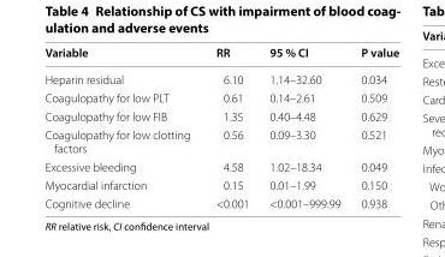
<table><thead><tr><td>Variable</td><td>RR</td><td>95 % CI</td><td>P value</td></tr></thead><tbody><tr><td>Heparin residual</td><td>6.10</td><td>1.14–32.60</td><td>0.034</td></tr><tr><td>Coagulopathy for low PLT</td><td>0.61</td><td>0.14–2.61</td><td>0.509</td></tr><tr><td>Coagulopathy for low FIB</td><td>1.35</td><td>0.40–4.48</td><td>0.629</td></tr><tr><td>Coagulopathy for low clotting factors</td><td>0.56</td><td>0.09–3.30</td><td>0.521</td></tr><tr><td>Excessive bleeding</td><td>4.58</td><td>1.02–18.34</td><td>0.049</td></tr><tr><td>Myocardial infarction</td><td>0.15</td><td>0.01–1.99</td><td>0.150</td></tr><tr><td>Cognitive decline</td><td>&lt;0.001</td><td>&lt;0.001–999.99</td><td>0.938</td></tr></tbody></table>